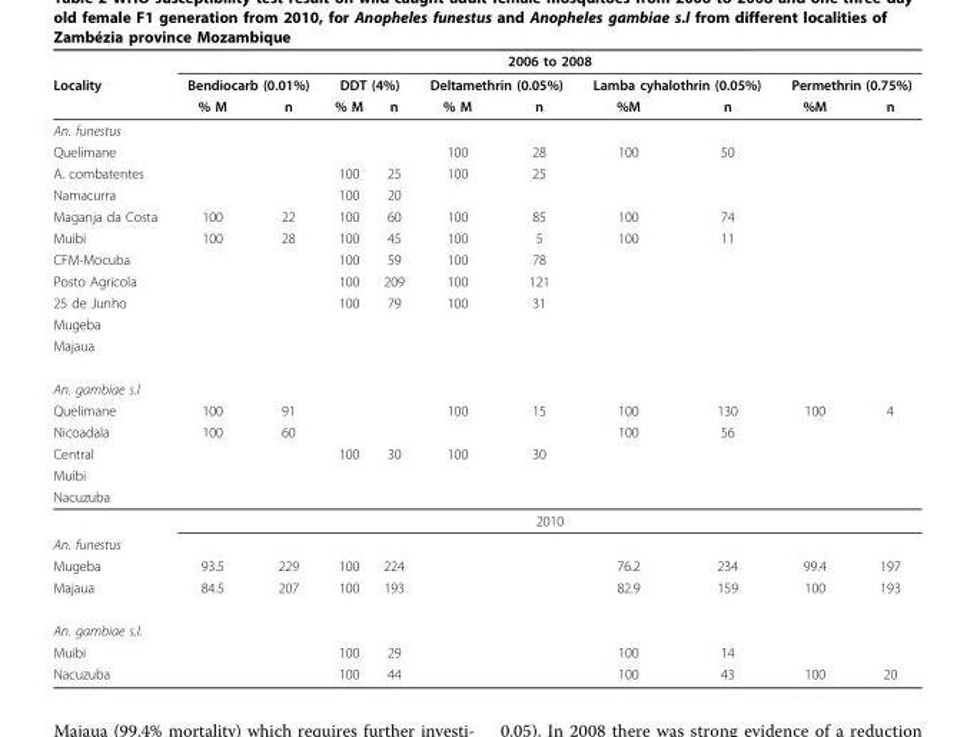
<table><thead><tr><td rowspan="3">Locality</td><td colspan="10">2006 to 2008</td></tr><tr><td colspan="2">Bendiocarb (0.01%)</td><td colspan="2">DDT (4%)</td><td colspan="2">Deltamethrin (0.05%)</td><td colspan="2">Lamba cyhalothrin (0.05%)</td><td colspan="2">Permethrin (0.75%)</td></tr><tr><td>% M</td><td>n</td><td>% M</td><td>n</td><td>% M</td><td>n</td><td>%M</td><td>n</td><td>%M</td><td>n</td></tr></thead><tbody><tr><td colspan="11">An. funestus</td></tr><tr><td>Quelimane</td><td></td><td></td><td></td><td></td><td>100</td><td>28</td><td>100</td><td>50</td><td></td><td></td></tr><tr><td>A. combatentes</td><td></td><td></td><td>100</td><td>25</td><td>100</td><td>25</td><td></td><td></td><td></td><td></td></tr><tr><td>Namacurra</td><td></td><td></td><td>100</td><td>20</td><td></td><td></td><td></td><td></td><td></td><td></td></tr><tr><td>Maganja da Costa</td><td>100</td><td>22</td><td>100</td><td>60</td><td>100</td><td>85</td><td>100</td><td>74</td><td></td><td></td></tr><tr><td>Muibi</td><td>100</td><td>28</td><td>100</td><td>45</td><td>100</td><td>5</td><td>100</td><td>11</td><td></td><td></td></tr><tr><td>CFM-Mocuba</td><td></td><td></td><td>100</td><td>59</td><td>100</td><td>78</td><td></td><td></td><td></td><td></td></tr><tr><td>Posto Agricola</td><td></td><td></td><td>100</td><td>209</td><td>100</td><td>121</td><td></td><td></td><td></td><td></td></tr><tr><td>25 de Junho</td><td></td><td></td><td>100</td><td>79</td><td>100</td><td>31</td><td></td><td></td><td></td><td></td></tr><tr><td colspan="11">Mugeba</td></tr><tr><td colspan="11">Majaua</td></tr><tr><td colspan="11">An. gambiae s.l</td></tr><tr><td>Quelimane</td><td>100</td><td>91</td><td></td><td></td><td>100</td><td>15</td><td>100</td><td>130</td><td>100</td><td>4</td></tr><tr><td>Nicoadala</td><td>100</td><td>60</td><td></td><td></td><td></td><td></td><td>100</td><td>56</td><td></td><td></td></tr><tr><td>Central</td><td></td><td></td><td>100</td><td>30</td><td>100</td><td>30</td><td></td><td></td><td></td><td></td></tr><tr><td colspan="11">Muibi</td></tr><tr><td colspan="11">Nacuzuba</td></tr><tr><td></td><td colspan="10">2010</td></tr><tr><td colspan="11">An. funestus</td></tr><tr><td>Mugeba</td><td>93.5</td><td>229</td><td>100</td><td>224</td><td></td><td></td><td>76.2</td><td>234</td><td>99.4</td><td>197</td></tr><tr><td>Majaua</td><td>84.5</td><td>207</td><td>100</td><td>193</td><td></td><td></td><td>82.9</td><td>159</td><td>100</td><td>193</td></tr><tr><td colspan="11">An. gambiae s.l.</td></tr><tr><td>Muibi</td><td></td><td></td><td>100</td><td>29</td><td></td><td></td><td>100</td><td>14</td><td></td><td></td></tr><tr><td>Nacuzuba</td><td></td><td></td><td>100</td><td>44</td><td></td><td></td><td>100</td><td>43</td><td>100</td><td>20</td></tr></tbody></table>